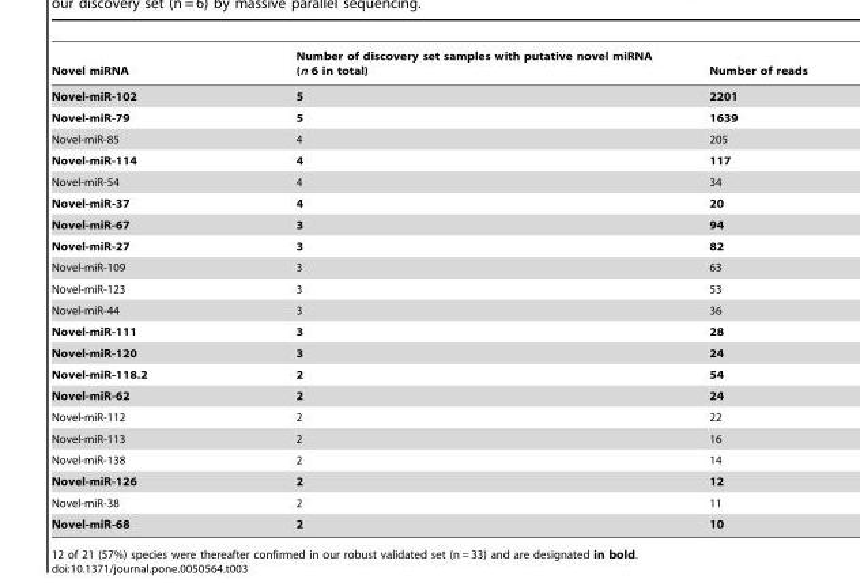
<table><thead><tr><td>Novel miRNA</td><td>Number of discovery set samples with putative novel miRNA (n 6 in total)</td><td>Number of reads</td></tr></thead><tbody><tr><td>Novel-miR-102</td><td>5</td><td>2201</td></tr><tr><td>Novel-miR-79</td><td>5</td><td>1639</td></tr><tr><td>Novel-miR-85</td><td>4</td><td>205</td></tr><tr><td>Novel-miR-114</td><td>4</td><td>117</td></tr><tr><td>Novel-miR-54</td><td>4</td><td>34</td></tr><tr><td>Novel-miR-37</td><td>4</td><td>20</td></tr><tr><td>Novel-miR-67</td><td>3</td><td>94</td></tr><tr><td>Novel-miR-27</td><td>3</td><td>82</td></tr><tr><td>Novel-miR-109</td><td>3</td><td>63</td></tr><tr><td>Novel-miR-123</td><td>3</td><td>53</td></tr><tr><td>Novel-miR-44</td><td>3</td><td>36</td></tr><tr><td>Novel-miR-111</td><td>3</td><td>28</td></tr><tr><td>Novel-miR-120</td><td>3</td><td>24</td></tr><tr><td>Novel-miR-118.2</td><td>2</td><td>54</td></tr><tr><td>Novel-miR-62</td><td>2</td><td>24</td></tr><tr><td>Novel-miR-112</td><td>2</td><td>22</td></tr><tr><td>Novel-miR-113</td><td>2</td><td>16</td></tr><tr><td>Novel-miR-138</td><td>2</td><td>14</td></tr><tr><td>Novel-miR-126</td><td>2</td><td>12</td></tr><tr><td>Novel-miR-38</td><td>2</td><td>11</td></tr><tr><td>Novel-miR-68</td><td>2</td><td>10</td></tr></tbody></table>